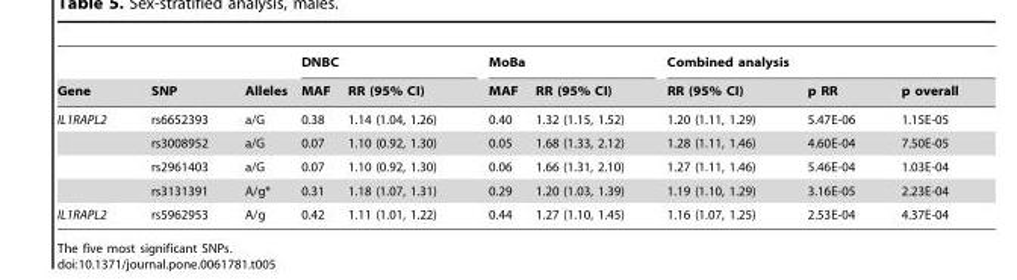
<table><thead><tr><td rowspan="2">Gene</td><td rowspan="2">SNP</td><td rowspan="2">Alleles</td><td colspan="2">DNBC</td><td colspan="2">MoBa</td><td colspan="3">Combined analysis</td></tr><tr><td>MAF</td><td>RR (95% CI)</td><td>MAF</td><td>RR (95% CI)</td><td>RR (95% CI)</td><td>p RR</td><td>p overall</td></tr></thead><tbody><tr><td rowspan="4">IL1RAPL2</td><td>rs6652393</td><td>a/G</td><td>0.38</td><td>1.14 (1.04, 1.26)</td><td>0.40</td><td>1.32 (1.15, 1.52)</td><td>1.20 (1.11, 1.29)</td><td>5.47E-06</td><td>1.15E-05</td></tr><tr><td>rs3008952</td><td>a/G</td><td>0.07</td><td>1.10 (0.92, 1.30)</td><td>0.05</td><td>1.68 (1.33, 2.12)</td><td>1.28 (1.11, 1.46)</td><td>4.60E-04</td><td>7.50E-05</td></tr><tr><td>rs2961403</td><td>a/G</td><td>0.07</td><td>1.10 (0.92, 1.30)</td><td>0.06</td><td>1.66 (1.31, 2.10)</td><td>1.27 (1.11, 1.46)</td><td>5.46E-04</td><td>1.03E-04</td></tr><tr><td>rs3131391</td><td>A/g*</td><td>0.31</td><td>1.18 (1.07, 1.31)</td><td>0.29</td><td>1.20 (1.03, 1.39)</td><td>1.19 (1.10, 1.29)</td><td>3.16E-05</td><td>2.23E-04</td></tr><tr><td>IL1RAPL2</td><td>rs5962953</td><td>A/g</td><td>0.42</td><td>1.11 (1.01, 1.22)</td><td>0.44</td><td>1.27 (1.10, 1.45)</td><td>1.16 (1.07, 1.25)</td><td>2.53E-04</td><td>4.37E-04</td></tr></tbody></table>